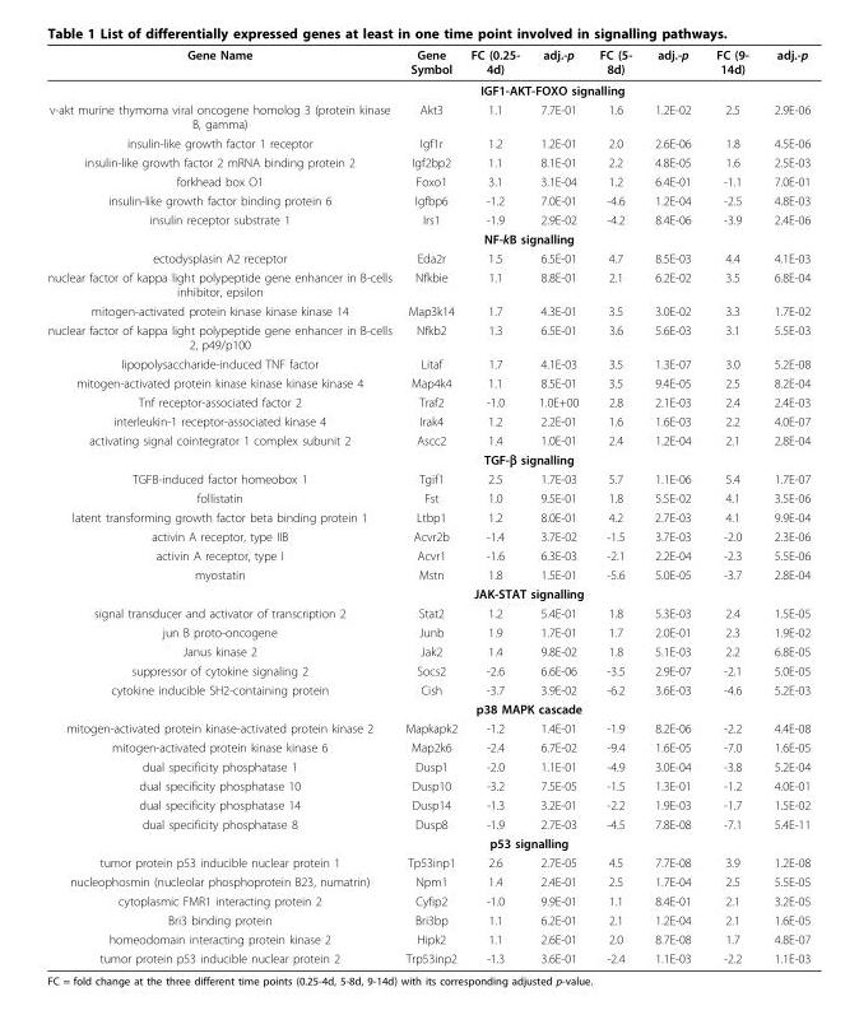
<table><thead><tr><td>Gene Name</td><td>Gene Symbol</td><td>FC (0.25- 4d)</td><td>adj.-p</td><td>FC (5- 8d)</td><td>adj.-p</td><td>FC (9- 14d)</td><td>adj.-p</td></tr></thead><tbody><tr><td></td><td></td><td colspan="3">IGF1-AKT-FOXO signalling</td><td></td><td></td><td></td></tr><tr><td>v-akt murine thymoma viral oncogene homolog 3 (protein kinase B, gamma)</td><td>Akt3</td><td>1.1</td><td>7.7E-01</td><td>1.6</td><td>1.2E-02</td><td>2.5</td><td>2.9E-06</td></tr><tr><td>insulin-like growth factor 1 receptor</td><td>Igf1r</td><td>1.2</td><td>1.2E-01</td><td>2.0</td><td>2.6E-06</td><td>1.8</td><td>4.5E-06</td></tr><tr><td>insulin-like growth factor 2 mRNA binding protein 2</td><td>Igf2bp2</td><td>1.1</td><td>8.1E-01</td><td>2.2</td><td>4.8E-05</td><td>1.6</td><td>2.5E-03</td></tr><tr><td>forkhead box O1</td><td>Foxo1</td><td>3.1</td><td>3.1E-04</td><td>1.2</td><td>6.4E-01</td><td>-1.1</td><td>7.0E-01</td></tr><tr><td>insulin-like growth factor binding protein 6</td><td>Igfbp6</td><td>-1.2</td><td>7.0E-01</td><td>-4.6</td><td>1.2E-04</td><td>-2.5</td><td>4.8E-03</td></tr><tr><td rowspan="2">insulin receptor substrate 1</td><td>Irs1</td><td>-1.9</td><td>2.9E-02</td><td>-4.2</td><td>8.4E-06</td><td>-3.9</td><td>2.4E-06</td></tr><tr><td></td><td colspan="2">NF-kB signalling</td><td></td><td></td><td></td><td></td></tr><tr><td>ectodysplasin A2 receptor</td><td>Eda2r</td><td>1.5</td><td>6.5E-01</td><td>4.7</td><td>8.5E-03</td><td>4.4</td><td>4.1E-03</td></tr><tr><td>nuclear factor of kappa light polypeptide gene enhancer in B-cells inhibitor, epsilon</td><td>Nfkbie</td><td>1.1</td><td>8.8E-01</td><td>2.1</td><td>6.2E-02</td><td>3.5</td><td>6.8E-04</td></tr><tr><td>mitogen-activated protein kinase kinase kinase 14</td><td>Map3k14</td><td>1.7</td><td>4.3E-01</td><td>3.5</td><td>3.0E-02</td><td>3.3</td><td>1.7E-02</td></tr><tr><td>nuclear factor of kappa light polypeptide gene enhancer in B-cells 2, p49/p100</td><td>Nfkb2</td><td>1.3</td><td>6.5E-01</td><td>3.6</td><td>5.6E-03</td><td>3.1</td><td>5.5E-03</td></tr><tr><td>lipopolysaccharide-induced TNF factor</td><td>Litaf</td><td>1.7</td><td>4.1E-03</td><td>3.5</td><td>1.3E-07</td><td>3.0</td><td>5.2E-08</td></tr><tr><td>mitogen-activated protein kinase kinase kinase kinase 4</td><td>Map4k4</td><td>1.1</td><td>8.5E-01</td><td>3.5</td><td>9.4E-05</td><td>2.5</td><td>8.2E-04</td></tr><tr><td>Tnf receptor-associated factor 2</td><td>Traf2</td><td>-1.0</td><td>1.0E+00</td><td>2.8</td><td>2.1E-03</td><td>2.4</td><td>2.4E-03</td></tr><tr><td>interleukin-1 receptor-associated kinase 4</td><td>Irak4</td><td>1.2</td><td>2.2E-01</td><td>1.6</td><td>1.6E-03</td><td>2.2</td><td>4.0E-07</td></tr><tr><td rowspan="2">activating signal cointegrator 1 complex subunit 2</td><td>Ascc2</td><td>1.4</td><td>1.0E-01</td><td>2.4</td><td>1.2E-04</td><td>2.1</td><td>2.8E-04</td></tr><tr><td></td><td colspan="2">TGF-β signalling</td><td></td><td></td><td></td><td></td></tr><tr><td>TGFB-induced factor homeobox 1</td><td>Tgif1</td><td>2.5</td><td>1.7E-03</td><td>5.7</td><td>1.1E-06</td><td>5.4</td><td>1.7E-07</td></tr><tr><td>follistatin</td><td>Fst</td><td>1.0</td><td>9.5E-01</td><td>1.8</td><td>5.5E-02</td><td>4.1</td><td>3.5E-06</td></tr><tr><td>latent transforming growth factor beta binding protein 1</td><td>Ltbp1</td><td>1.2</td><td>8.0E-01</td><td>4.2</td><td>2.7E-03</td><td>4.1</td><td>9.9E-04</td></tr><tr><td>activin A receptor, type IIB</td><td>Acvr2b</td><td>-1.4</td><td>3.7E-02</td><td>-1.5</td><td>3.7E-03</td><td>-2.0</td><td>2.3E-06</td></tr><tr><td>activin A receptor, type I</td><td>Acvr1</td><td>-1.6</td><td>6.3E-03</td><td>-2.1</td><td>2.2E-04</td><td>-2.3</td><td>5.5E-06</td></tr><tr><td rowspan="2">myostatin</td><td>Mstn</td><td>1.8</td><td>1.5E-01</td><td>-5.6</td><td>5.0E-05</td><td>-3.7</td><td>2.8E-04</td></tr><tr><td></td><td colspan="2">JAK-STAT signalling</td><td></td><td></td><td></td><td></td></tr><tr><td>signal transducer and activator of transcription 2</td><td>Stat2</td><td>1.2</td><td>5.4E-01</td><td>1.8</td><td>5.3E-03</td><td>2.4</td><td>1.5E-05</td></tr><tr><td>jun B proto-oncogene</td><td>Junb</td><td>1.9</td><td>1.7E-01</td><td>1.7</td><td>2.0E-01</td><td>2.3</td><td>1.9E-02</td></tr><tr><td>Janus kinase 2</td><td>Jak2</td><td>1.4</td><td>9.8E-02</td><td>1.8</td><td>5.1E-03</td><td>2.2</td><td>6.8E-05</td></tr><tr><td>suppressor of cytokine signaling 2</td><td>Socs2</td><td>-2.6</td><td>6.6E-06</td><td>-3.5</td><td>2.9E-07</td><td>-2.1</td><td>5.0E-05</td></tr><tr><td rowspan="2">cytokine inducible SH2-containing protein</td><td>Cish</td><td>-3.7</td><td>3.9E-02</td><td>-6.2</td><td>3.6E-03</td><td>-4.6</td><td>5.2E-03</td></tr><tr><td></td><td colspan="2">p38 MAPK cascade</td><td></td><td></td><td></td><td></td></tr><tr><td>mitogen-activated protein kinase-activated protein kinase 2</td><td>Mapkapk2</td><td>-1.2</td><td>1.4E-01</td><td>-1.9</td><td>8.2E-06</td><td>-2.2</td><td>4.4E-08</td></tr><tr><td>mitogen-activated protein kinase kinase 6</td><td>Map2k6</td><td>-2.4</td><td>6.7E-02</td><td>-9.4</td><td>1.6E-05</td><td>-7.0</td><td>1.6E-05</td></tr><tr><td>dual specificity phosphatase 1</td><td>Dusp1</td><td>-2.0</td><td>1.1E-01</td><td>-4.9</td><td>3.0E-04</td><td>-3.8</td><td>5.2E-04</td></tr><tr><td>dual specificity phosphatase 10</td><td>Dusp10</td><td>-3.2</td><td>7.5E-05</td><td>-1.5</td><td>1.3E-01</td><td>-1.2</td><td>4.0E-01</td></tr><tr><td>dual specificity phosphatase 14</td><td>Dusp14</td><td>-1.3</td><td>3.2E-01</td><td>-2.2</td><td>1.9E-03</td><td>-1.7</td><td>1.5E-02</td></tr><tr><td rowspan="2">dual specificity phosphatase 8</td><td>Dusp8</td><td>-1.9</td><td>2.7E-03</td><td>-4.5</td><td>7.8E-08</td><td>-7.1</td><td>5.4E-11</td></tr><tr><td></td><td colspan="2">p53 signalling</td><td></td><td></td><td></td><td></td></tr><tr><td>tumor protein p53 inducible nuclear protein 1</td><td>Tp53inp1</td><td>2.6</td><td>2.7E-05</td><td>4.5</td><td>7.7E-08</td><td>3.9</td><td>1.2E-08</td></tr><tr><td>nucleophosmin (nucleolar phosphoprotein B23, numatrin)</td><td>Npm1</td><td>1.4</td><td>2.4E-01</td><td>2.5</td><td>1.7E-04</td><td>2.5</td><td>5.5E-05</td></tr><tr><td>cytoplasmic FMR1 interacting protein 2</td><td>Cyfip2</td><td>-1.0</td><td>9.9E-01</td><td>1.1</td><td>8.4E-01</td><td>2.1</td><td>3.2E-05</td></tr><tr><td>Bri3 binding protein</td><td>Bri3bp</td><td>1.1</td><td>6.2E-01</td><td>2.1</td><td>1.2E-04</td><td>2.1</td><td>1.6E-05</td></tr><tr><td>homeodomain interacting protein kinase 2</td><td>Hipk2</td><td>1.1</td><td>2.6E-01</td><td>2.0</td><td>8.7E-08</td><td>1.7</td><td>4.8E-07</td></tr><tr><td>tumor protein p53 inducible nuclear protein 2</td><td>Trp53inp2</td><td>-1.3</td><td>3.6E-01</td><td>-2.4</td><td>1.1E-03</td><td>-2.2</td><td>1.1E-03</td></tr></tbody></table>